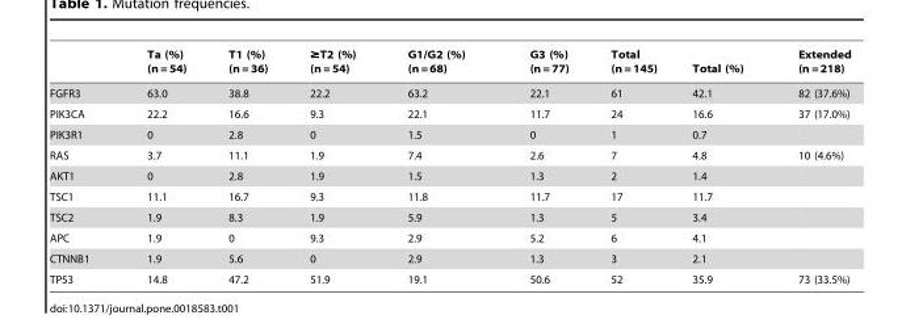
<table><thead><tr><td></td><td>Ta (%) (n = 54)</td><td>T1 (%) (n = 36)</td><td>≥T2 (%) (n = 54)</td><td>G1/G2 (%) (n = 68)</td><td>G3 (%) (n = 77)</td><td>Total (n = 145)</td><td>Total (%)</td><td>Extended (n = 218)</td></tr></thead><tbody><tr><td>FGFR3</td><td>63.0</td><td>38.8</td><td>22.2</td><td>63.2</td><td>22.1</td><td>61</td><td>42.1</td><td>82 (37.6%)</td></tr><tr><td>PIK3CA</td><td>22.2</td><td>16.6</td><td>9.3</td><td>22.1</td><td>11.7</td><td>24</td><td>16.6</td><td>37 (17.0%)</td></tr><tr><td>PIK3R1</td><td>0</td><td>2.8</td><td>0</td><td>1.5</td><td>0</td><td>1</td><td>0.7</td><td></td></tr><tr><td>RAS</td><td>3.7</td><td>11.1</td><td>1.9</td><td>7.4</td><td>2.6</td><td>7</td><td>4.8</td><td>10 (4.6%)</td></tr><tr><td>AKT1</td><td>0</td><td>2.8</td><td>1.9</td><td>1.5</td><td>1.3</td><td>2</td><td>1.4</td><td></td></tr><tr><td>TSC1</td><td>11.1</td><td>16.7</td><td>9.3</td><td>11.8</td><td>11.7</td><td>17</td><td>11.7</td><td></td></tr><tr><td>TSC2</td><td>1.9</td><td>8.3</td><td>1.9</td><td>5.9</td><td>1.3</td><td>5</td><td>3.4</td><td></td></tr><tr><td>APC</td><td>1.9</td><td>0</td><td>9.3</td><td>2.9</td><td>5.2</td><td>6</td><td>4.1</td><td></td></tr><tr><td>CTNNB1</td><td>1.9</td><td>5.6</td><td>0</td><td>2.9</td><td>1.3</td><td>3</td><td>2.1</td><td></td></tr><tr><td>TP53</td><td>14.8</td><td>47.2</td><td>51.9</td><td>19.1</td><td>50.6</td><td>52</td><td>35.9</td><td>73 (33.5%)</td></tr></tbody></table>